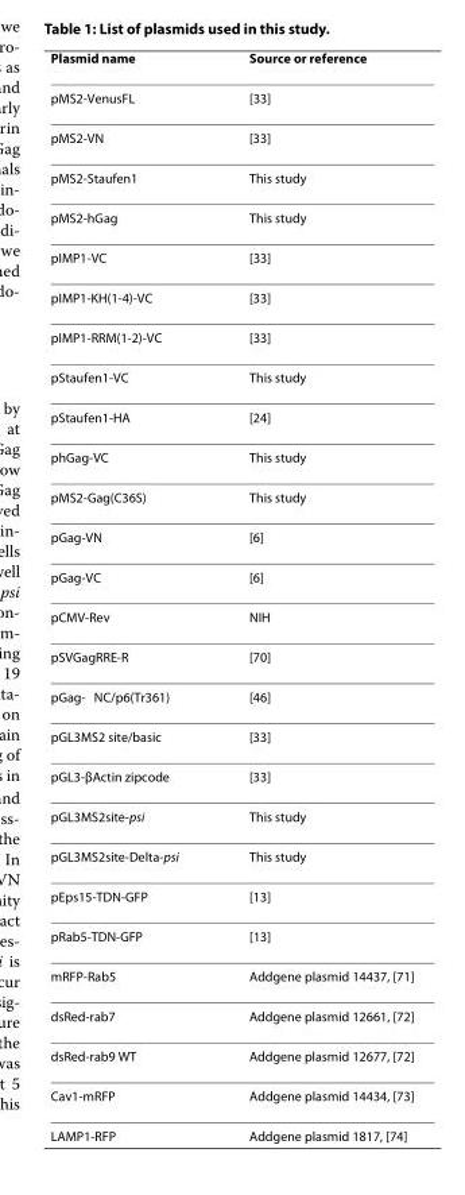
<table><thead><tr><td>Plasmid name</td><td>Source or reference</td></tr></thead><tbody><tr><td>pMS2-VenusFL</td><td>[33]</td></tr><tr><td>pMS2-VN</td><td>[33]</td></tr><tr><td>pMS2-Staufen1</td><td>This study</td></tr><tr><td>pMS2-hGag</td><td>This study</td></tr><tr><td>pIMP1-VC</td><td>[33]</td></tr><tr><td>pIMP1-KH(1-4)-VC</td><td>[33]</td></tr><tr><td>pIMP1-RRM(1-2)-VC</td><td>[33]</td></tr><tr><td>pStaufen1-VC</td><td>This study</td></tr><tr><td>pStaufen1-HA</td><td>[24]</td></tr><tr><td>phGag-VC</td><td>This study</td></tr><tr><td>pMS2-Gag(C36S)</td><td>This study</td></tr><tr><td>pGag-VN</td><td>[6]</td></tr><tr><td>pGag-VC</td><td>[6]</td></tr><tr><td>pCMV-Rev</td><td>NIH</td></tr><tr><td>pSVGagRRE-R</td><td>[70]</td></tr><tr><td>pGag- NC/p6(Tr361)</td><td>[46]</td></tr><tr><td>pGL3MS2 site/basic</td><td>[33]</td></tr><tr><td>pGL3-βActin zipcode</td><td>[33]</td></tr><tr><td>pGL3MS2site-psi</td><td>This study</td></tr><tr><td>pGL3MS2site-Delta-psi</td><td>This study</td></tr><tr><td>pEps15-TDN-GFP</td><td>[13]</td></tr><tr><td>pRab5-TDN-GFP</td><td>[13]</td></tr><tr><td>mRFP-Rab5</td><td>Addgene plasmid 14437, [71]</td></tr><tr><td>dsRed-rab7</td><td>Addgene plasmid 12661, [72]</td></tr><tr><td>dsRed-rab9 WT</td><td>Addgene plasmid 12677, [72]</td></tr><tr><td>Cav1-mRFP</td><td>Addgene plasmid 14434, [73]</td></tr><tr><td>LAMP1-RFP</td><td>Addgene plasmid 1817, [74]</td></tr></tbody></table>